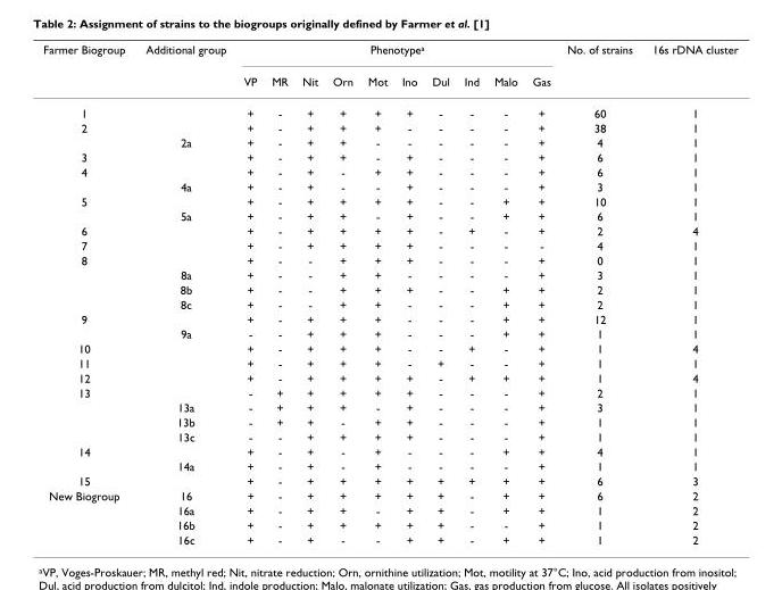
<table><thead><tr><td rowspan="2">Farmer Biogroup</td><td rowspan="2">Additional group</td><td colspan="10">Phenotypea</td><td rowspan="2">No. of strains</td><td rowspan="2">16s rDNA cluster</td></tr><tr><td>VP</td><td>MR</td><td>Nit</td><td>Orn</td><td>Mot</td><td>Ino</td><td>Dul</td><td>Ind</td><td>Malo</td><td>Gas</td></tr></thead><tbody><tr><td>1</td><td></td><td>+</td><td>-</td><td>+</td><td>+</td><td>+</td><td>+</td><td>-</td><td>-</td><td>-</td><td>+</td><td>60</td><td>1</td></tr><tr><td rowspan="2">2</td><td></td><td>+</td><td>-</td><td>+</td><td>+</td><td>+</td><td>-</td><td>-</td><td>-</td><td>-</td><td>+</td><td>38</td><td>1</td></tr><tr><td>2a</td><td>+</td><td>-</td><td>+</td><td>+</td><td>-</td><td>-</td><td>-</td><td>-</td><td>-</td><td>+</td><td>4</td><td>1</td></tr><tr><td>3</td><td></td><td>+</td><td>-</td><td>+</td><td>+</td><td>-</td><td>+</td><td>-</td><td>-</td><td>-</td><td>+</td><td>6</td><td>1</td></tr><tr><td rowspan="2">4</td><td></td><td>+</td><td>-</td><td>+</td><td>-</td><td>+</td><td>+</td><td>-</td><td>-</td><td>-</td><td>+</td><td>6</td><td>1</td></tr><tr><td>4a</td><td>+</td><td>-</td><td>+</td><td>-</td><td>-</td><td>+</td><td>-</td><td>-</td><td>-</td><td>+</td><td>3</td><td>1</td></tr><tr><td rowspan="2">5</td><td></td><td>+</td><td>-</td><td>+</td><td>+</td><td>+</td><td>+</td><td>-</td><td>-</td><td>+</td><td>+</td><td>10</td><td>1</td></tr><tr><td>5a</td><td>+</td><td>-</td><td>+</td><td>+</td><td>-</td><td>+</td><td>-</td><td>-</td><td>+</td><td>+</td><td>6</td><td>1</td></tr><tr><td>6</td><td></td><td>+</td><td>-</td><td>+</td><td>+</td><td>+</td><td>+</td><td>-</td><td>+</td><td>-</td><td>+</td><td>2</td><td>4</td></tr><tr><td>7</td><td></td><td>+</td><td>-</td><td>+</td><td>+</td><td>+</td><td>+</td><td>-</td><td>-</td><td>-</td><td>-</td><td>4</td><td>1</td></tr><tr><td rowspan="4">8</td><td></td><td>+</td><td>-</td><td>-</td><td>+</td><td>+</td><td>+</td><td>-</td><td>-</td><td>-</td><td>+</td><td>0</td><td>1</td></tr><tr><td>8a</td><td>+</td><td>-</td><td>-</td><td>+</td><td>+</td><td>-</td><td>-</td><td>-</td><td>-</td><td>+</td><td>3</td><td>1</td></tr><tr><td>8b</td><td>+</td><td>-</td><td>-</td><td>+</td><td>+</td><td>+</td><td>-</td><td>-</td><td>+</td><td>+</td><td>2</td><td>1</td></tr><tr><td>8c</td><td>+</td><td>-</td><td>-</td><td>+</td><td>+</td><td>-</td><td>-</td><td>-</td><td>+</td><td>+</td><td>2</td><td>1</td></tr><tr><td rowspan="2">9</td><td></td><td>+</td><td>-</td><td>+</td><td>+</td><td>+</td><td>-</td><td>-</td><td>-</td><td>+</td><td>+</td><td>12</td><td>1</td></tr><tr><td>9a</td><td>-</td><td>-</td><td>+</td><td>+</td><td>+</td><td>-</td><td>-</td><td>-</td><td>+</td><td>+</td><td>1</td><td>1</td></tr><tr><td>10</td><td></td><td>+</td><td>-</td><td>+</td><td>+</td><td>+</td><td>-</td><td>-</td><td>+</td><td>-</td><td>+</td><td>1</td><td>4</td></tr><tr><td>11</td><td></td><td>+</td><td>-</td><td>+</td><td>+</td><td>+</td><td>-</td><td>+</td><td>-</td><td>-</td><td>+</td><td>1</td><td>1</td></tr><tr><td>12</td><td></td><td>+</td><td>-</td><td>+</td><td>+</td><td>+</td><td>+</td><td>-</td><td>+</td><td>+</td><td>+</td><td>1</td><td>4</td></tr><tr><td rowspan="4">13</td><td></td><td>-</td><td>+</td><td>+</td><td>+</td><td>+</td><td>+</td><td>-</td><td>-</td><td>-</td><td>+</td><td>2</td><td>1</td></tr><tr><td>13a</td><td>-</td><td>+</td><td>+</td><td>+</td><td>-</td><td>+</td><td>-</td><td>-</td><td>-</td><td>+</td><td>3</td><td>1</td></tr><tr><td>13b</td><td>-</td><td>+</td><td>+</td><td>-</td><td>+</td><td>+</td><td>-</td><td>-</td><td>-</td><td>+</td><td>1</td><td>1</td></tr><tr><td>13c</td><td>-</td><td>-</td><td>+</td><td>+</td><td>+</td><td>+</td><td>-</td><td>-</td><td>-</td><td>+</td><td>1</td><td>1</td></tr><tr><td rowspan="2">14</td><td></td><td>+</td><td>-</td><td>+</td><td>-</td><td>+</td><td>-</td><td>-</td><td>-</td><td>+</td><td>+</td><td>4</td><td>1</td></tr><tr><td>14a</td><td>+</td><td>-</td><td>+</td><td>-</td><td>+</td><td>-</td><td>-</td><td>-</td><td>-</td><td>+</td><td>1</td><td>1</td></tr><tr><td>15</td><td></td><td>+</td><td>-</td><td>+</td><td>+</td><td>+</td><td>+</td><td>+</td><td>+</td><td>+</td><td>+</td><td>6</td><td>3</td></tr><tr><td rowspan="4">New Biogroup</td><td>16</td><td>+</td><td>-</td><td>+</td><td>+</td><td>+</td><td>+</td><td>+</td><td>-</td><td>+</td><td>+</td><td>6</td><td>2</td></tr><tr><td>16a</td><td>+</td><td>-</td><td>+</td><td>+</td><td>-</td><td>+</td><td>+</td><td>-</td><td>+</td><td>+</td><td>1</td><td>2</td></tr><tr><td>16b</td><td>+</td><td>-</td><td>+</td><td>+</td><td>+</td><td>+</td><td>+</td><td>-</td><td>-</td><td>+</td><td>1</td><td>2</td></tr><tr><td>16c</td><td>+</td><td>-</td><td>+</td><td>-</td><td>-</td><td>+</td><td>+</td><td>-</td><td>+</td><td>+</td><td>1</td><td>2</td></tr></tbody></table>